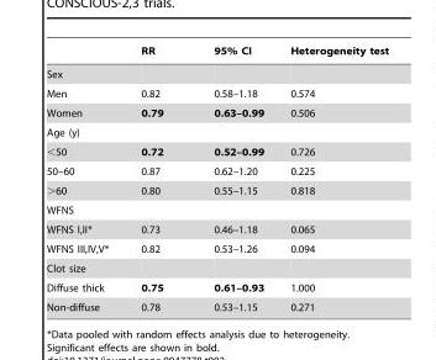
<table><thead><tr><td></td><td>RR</td><td>95% CI</td><td>Heterogeneity test</td></tr></thead><tbody><tr><td colspan="4">Sex</td></tr><tr><td>Men</td><td>0.82</td><td>0.58–1.18</td><td>0.574</td></tr><tr><td>Women</td><td>0.79</td><td>0.63–0.99</td><td>0.506</td></tr><tr><td colspan="4">Age (y)</td></tr><tr><td>&lt;50</td><td>0.72</td><td>0.52–0.99</td><td>0.726</td></tr><tr><td>50–60</td><td>0.87</td><td>0.62–1.20</td><td>0.225</td></tr><tr><td>&gt;60</td><td>0.80</td><td>0.55–1.15</td><td>0.818</td></tr><tr><td colspan="4">WFNS</td></tr><tr><td>WFNS I,II*</td><td>0.73</td><td>0.46–1.18</td><td>0.065</td></tr><tr><td>WFNS III,IV,V*</td><td>0.82</td><td>0.53–1.26</td><td>0.094</td></tr><tr><td colspan="4">Clot size</td></tr><tr><td>Diffuse thick</td><td>0.75</td><td>0.61–0.93</td><td>1.000</td></tr><tr><td>Non-diffuse</td><td>0.78</td><td>0.53–1.15</td><td>0.271</td></tr></tbody></table>